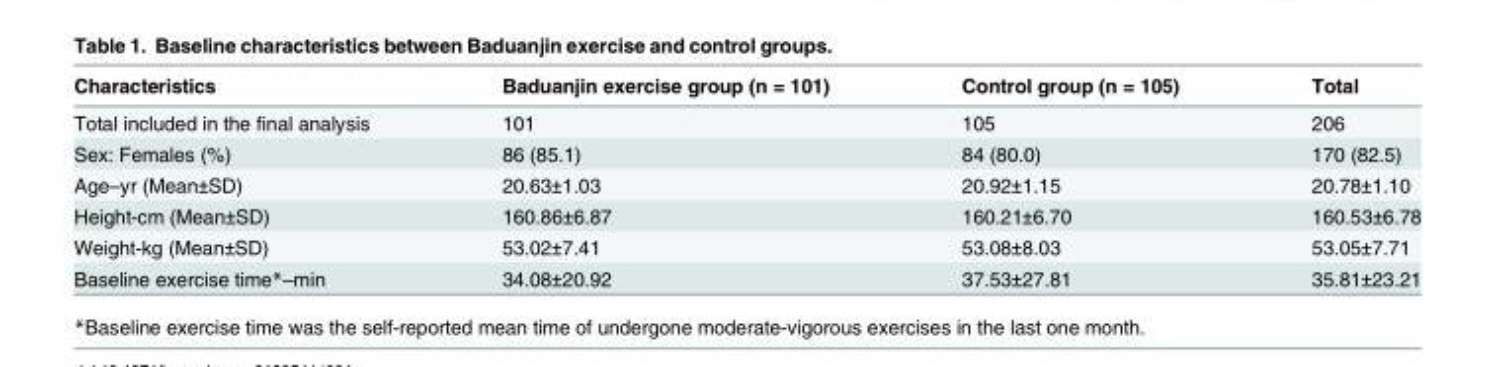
<table><thead><tr><td>Characteristics</td><td>Baduanjin exercise group (n = 101)</td><td>Control group (n = 105)</td><td>Total</td></tr></thead><tbody><tr><td>Total included in the final analysis</td><td>101</td><td>105</td><td>206</td></tr><tr><td>Sex: Females (%)</td><td>86 (85.1)</td><td>84 (80.0)</td><td>170 (82.5)</td></tr><tr><td>Age–yr (Mean±SD)</td><td>20.63±1.03</td><td>20.92±1.15</td><td>20.78±1.10</td></tr><tr><td>Height-cm (Mean±SD)</td><td>160.86±6.87</td><td>160.21±6.70</td><td>160.53±6.78</td></tr><tr><td>Weight-kg (Mean±SD)</td><td>53.02±7.41</td><td>53.08±8.03</td><td>53.05±7.71</td></tr><tr><td>Baseline exercise time*–min</td><td>34.08±20.92</td><td>37.53±27.81</td><td>35.81±23.21</td></tr></tbody></table>